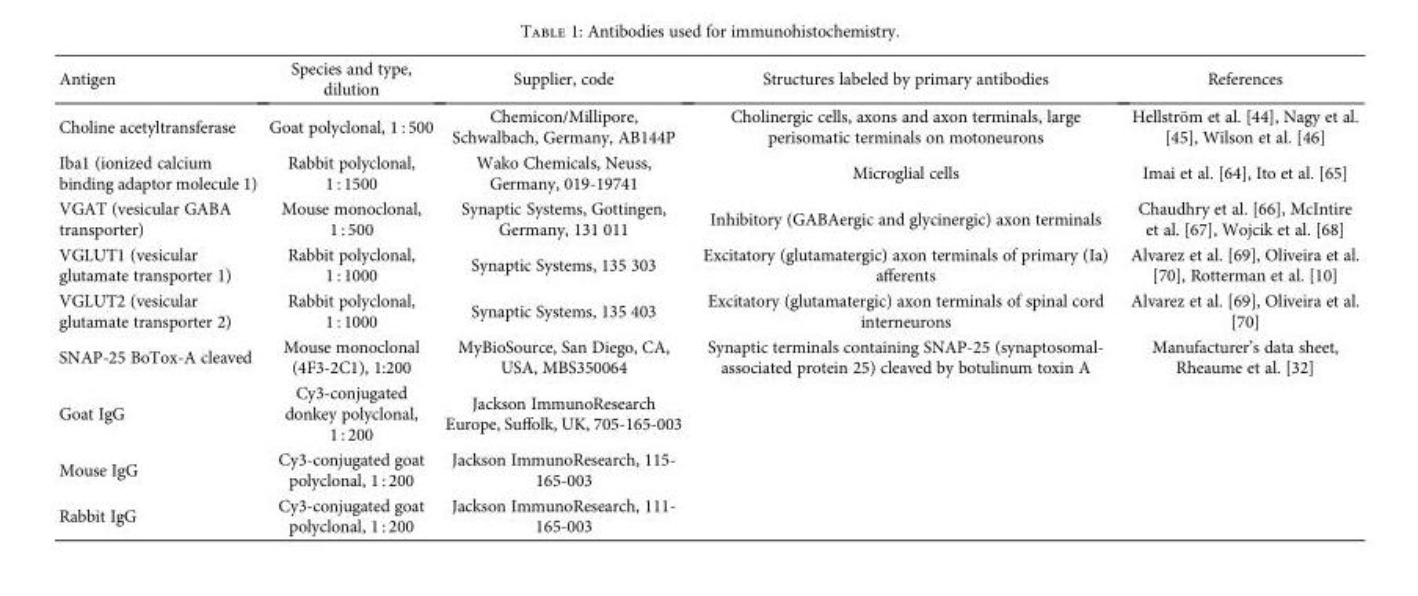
<table><thead><tr><td>Antigen</td><td>Species and type, dilution</td><td>Supplier, code</td><td>Structures labeled by primary antibodies</td><td>References</td></tr></thead><tbody><tr><td>Choline acetyltransferase</td><td>Goat polyclonal, 1 : 500</td><td>Chemicon/Millipore, Schwalbach, Germany, AB144P</td><td>Cholinergic cells, axons and axon terminals, large perisomatic terminals on motoneurons</td><td>Hellström et al. [44], Nagy et al. [45], Wilson et al. [46]</td></tr><tr><td>Iba1 (ionized calcium binding adaptor molecule 1)</td><td>Rabbit polyclonal, 1 : 1500</td><td>Wako Chemicals, Neuss, Germany, 019-19741</td><td>Microglial cells</td><td>Imai et al. [64], Ito et al. [65]</td></tr><tr><td>VGAT (vesicular GABA transporter)</td><td>Mouse monoclonal, 1 : 500</td><td>Synaptic Systems, Gottingen, Germany, 131 011</td><td>Inhibitory (GABAergic and glycinergic) axon terminals</td><td>Chaudhry et al. [66], McIntire et al. [67], Wojcik et al. [68]</td></tr><tr><td>VGLUT1 (vesicular glutamate transporter 1)</td><td>Rabbit polyclonal, 1 : 1000</td><td>Synaptic Systems, 135 303</td><td>Excitatory (glutamatergic) axon terminals of primary (Ia) afferents</td><td>Alvarez et al. [69], Oliveira et al. [70], Rotterman et al. [10]</td></tr><tr><td>VGLUT2 (vesicular glutamate transporter 2)</td><td>Rabbit polyclonal, 1 : 1000</td><td>Synaptic Systems, 135 403</td><td>Excitatory (glutamatergic) axon terminals of spinal cord interneurons</td><td>Alvarez et al. [69], Oliveira et al. [70]</td></tr><tr><td>SNAP-25 BoTox-A cleaved</td><td>Mouse monoclonal (4F3-2C1), 1:200</td><td>MyBioSource, San Diego, CA, USA, MBS350064</td><td>Synaptic terminals containing SNAP-25 (synaptosomal- associated protein 25) cleaved by botulinum toxin A</td><td>Manufacturer’s data sheet, Rheaume et al. [32]</td></tr><tr><td>Goat IgG</td><td>Cy3-conjugated donkey polyclonal, 1 : 200</td><td>Jackson ImmunoResearch Europe, Suffolk, UK, 705-165-003</td><td></td><td></td></tr><tr><td>Mouse IgG</td><td>Cy3-conjugated goat polyclonal, 1 : 200</td><td>Jackson ImmunoResearch, 115- 165-003</td><td></td><td></td></tr><tr><td>Rabbit IgG</td><td>Cy3-conjugated goat polyclonal, 1 : 200</td><td>Jackson ImmunoResearch, 111- 165-003</td><td></td><td></td></tr></tbody></table>